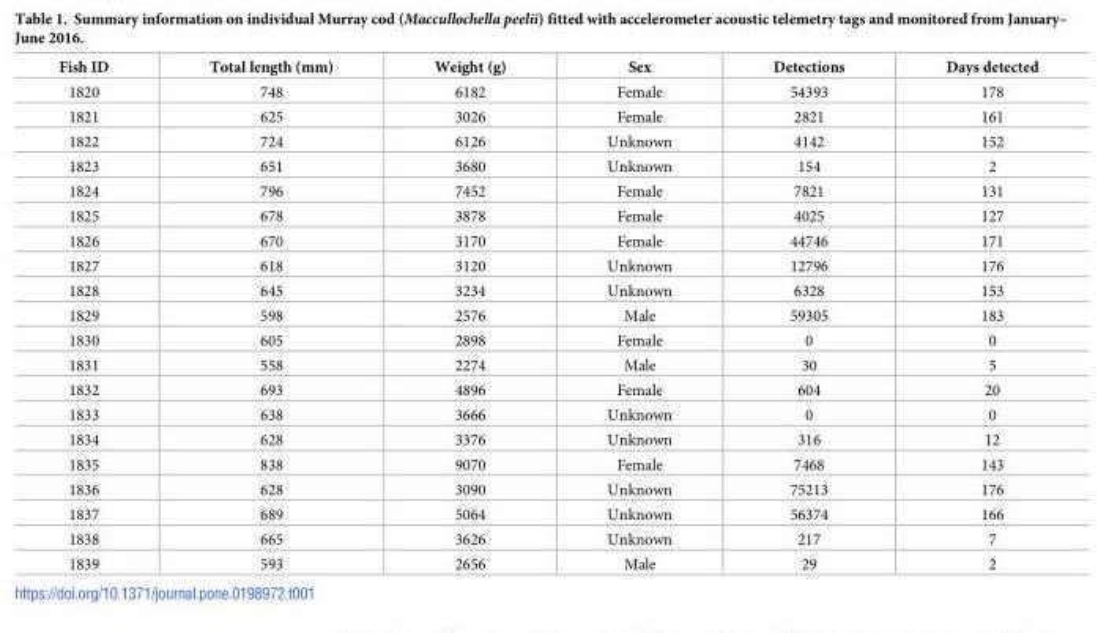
<table><thead><tr><td>Fish ID</td><td>Total length (mm)</td><td>Weight (g)</td><td>Sex</td><td>Detections</td><td>Days detected</td></tr></thead><tbody><tr><td>1820</td><td>748</td><td>6182</td><td>Female</td><td>54393</td><td>178</td></tr><tr><td>1821</td><td>625</td><td>3026</td><td>Female</td><td>2821</td><td>161</td></tr><tr><td>1822</td><td>724</td><td>6126</td><td>Unknown</td><td>4142</td><td>152</td></tr><tr><td>1823</td><td>651</td><td>3680</td><td>Unknown</td><td>154</td><td>2</td></tr><tr><td>1824</td><td>796</td><td>7452</td><td>Female</td><td>7821</td><td>131</td></tr><tr><td>1825</td><td>678</td><td>3878</td><td>Female</td><td>4025</td><td>127</td></tr><tr><td>1826</td><td>670</td><td>3170</td><td>Female</td><td>44746</td><td>171</td></tr><tr><td>1827</td><td>618</td><td>3120</td><td>Unknown</td><td>12796</td><td>176</td></tr><tr><td>1828</td><td>645</td><td>3234</td><td>Unknown</td><td>6328</td><td>153</td></tr><tr><td>1829</td><td>598</td><td>2576</td><td>Male</td><td>59305</td><td>183</td></tr><tr><td>1830</td><td>605</td><td>2898</td><td>Female</td><td>0</td><td>0</td></tr><tr><td>1831</td><td>558</td><td>2274</td><td>Male</td><td>30</td><td>5</td></tr><tr><td>1832</td><td>693</td><td>4896</td><td>Female</td><td>604</td><td>20</td></tr><tr><td>1833</td><td>638</td><td>3666</td><td>Unknown</td><td>0</td><td>0</td></tr><tr><td>1834</td><td>628</td><td>3376</td><td>Unknown</td><td>316</td><td>12</td></tr><tr><td>1835</td><td>838</td><td>9070</td><td>Female</td><td>7468</td><td>143</td></tr><tr><td>1836</td><td>628</td><td>3090</td><td>Unknown</td><td>75213</td><td>176</td></tr><tr><td>1837</td><td>689</td><td>5064</td><td>Unknown</td><td>56374</td><td>166</td></tr><tr><td>1838</td><td>665</td><td>3626</td><td>Unknown</td><td>217</td><td>7</td></tr><tr><td>1839</td><td>593</td><td>2656</td><td>Male</td><td>29</td><td>2</td></tr></tbody></table>